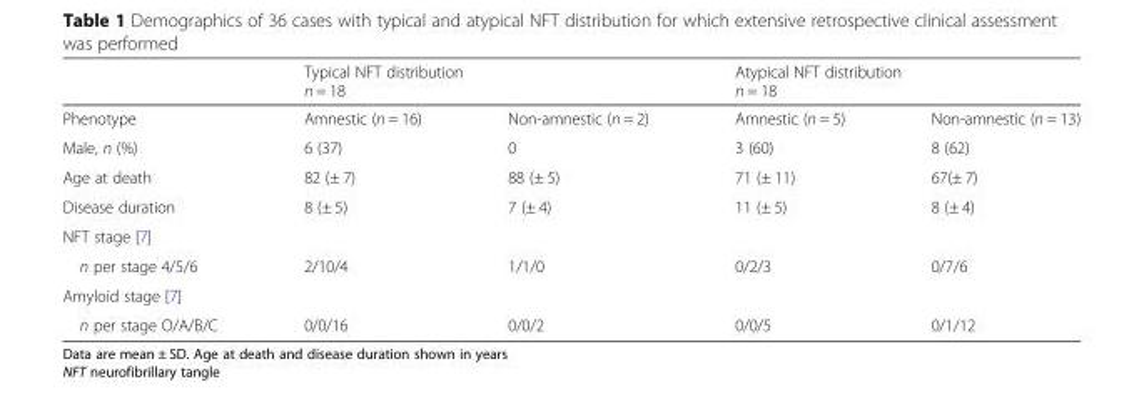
<table><thead><tr><td rowspan="2">Phenotype</td><td colspan="2">Typical NFT distribution n = 18</td><td colspan="2">Atypical NFT distribution n = 18</td></tr><tr><td>Amnestic (n = 16)</td><td>Non-amnestic (n = 2)</td><td>Amnestic (n = 5)</td><td>Non-amnestic (n = 13)</td></tr></thead><tbody><tr><td>Male, n (%)</td><td>6 (37)</td><td>0</td><td>3 (60)</td><td>8 (62)</td></tr><tr><td>Age at death</td><td>82 (± 7)</td><td>88 (± 5)</td><td>71 (± 11)</td><td>67(± 7)</td></tr><tr><td>Disease duration</td><td>8 (± 5)</td><td>7 (± 4)</td><td>11 (± 5)</td><td>8 (± 4)</td></tr><tr><td colspan="5">NFT stage [7]</td></tr><tr><td>n per stage 4/5/6</td><td>2/10/4</td><td>1/1/0</td><td>0/2/3</td><td>0/7/6</td></tr><tr><td colspan="5">Amyloid stage [7]</td></tr><tr><td>n per stage O/A/B/C</td><td>0/0/16</td><td>0/0/2</td><td>0/0/5</td><td>0/1/12</td></tr></tbody></table>